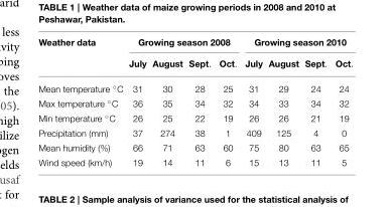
<table><thead><tr><td rowspan="2">Weather data</td><td colspan="4">Growing season 2008</td><td colspan="4">Growing season 2010</td></tr><tr><td>July</td><td>August</td><td>Sept.</td><td>Oct.</td><td>July</td><td>August</td><td>Sept.</td><td>Oct.</td></tr></thead><tbody><tr><td>Mean temperature ◦C</td><td>31</td><td>30</td><td>28</td><td>25</td><td>31</td><td>29</td><td>24</td><td>24</td></tr><tr><td>Max temperature ◦C</td><td>36</td><td>35</td><td>34</td><td>32</td><td>34</td><td>33</td><td>34</td><td>32</td></tr><tr><td>Min temperature ◦C</td><td>26</td><td>25</td><td>22</td><td>19</td><td>26</td><td>26</td><td>21</td><td>19</td></tr><tr><td>Precipitation (mm)</td><td>37</td><td>274</td><td>38</td><td>1</td><td>409</td><td>125</td><td>4</td><td>0</td></tr><tr><td>Mean humidity (%)</td><td>66</td><td>71</td><td>63</td><td>60</td><td>75</td><td>80</td><td>63</td><td>65</td></tr><tr><td>Wind speed (km/h)</td><td>19</td><td>14</td><td>11</td><td>6</td><td>15</td><td>13</td><td>11</td><td>5</td></tr></tbody></table>